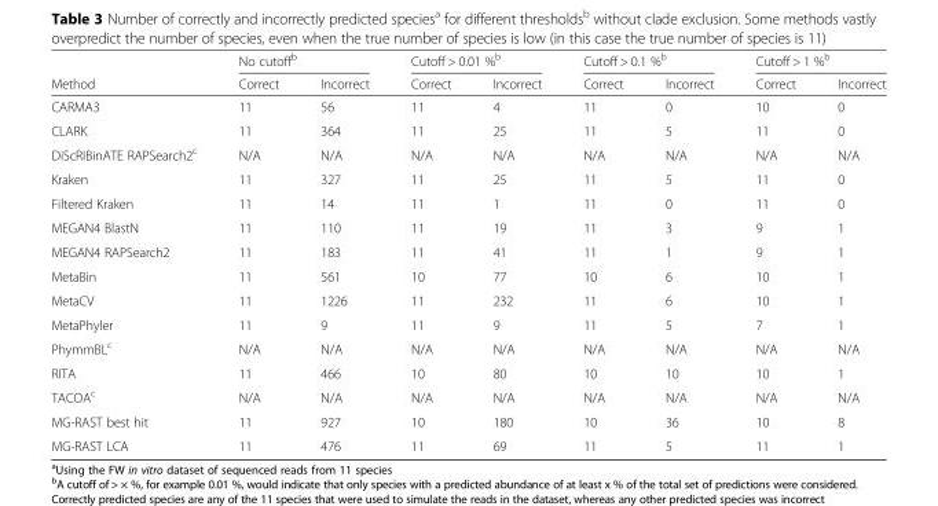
<table><thead><tr><td rowspan="2">Method</td><td colspan="2">No cutoff<sup>b</sup></td><td colspan="2">Cutoff &gt; 0.01 %<sup>b</sup></td><td colspan="2">Cutoff &gt; 0.1 %<sup>b</sup></td><td colspan="2">Cutoff &gt; 1 %<sup>b</sup></td></tr><tr><td>Correct</td><td>Incorrect</td><td>Correct</td><td>Incorrect</td><td>Correct</td><td>Incorrect</td><td>Correct</td><td>Incorrect</td></tr></thead><tbody><tr><td>CARMA3</td><td>11</td><td>56</td><td>11</td><td>4</td><td>11</td><td>0</td><td>10</td><td>0</td></tr><tr><td>CLARK</td><td>11</td><td>364</td><td>11</td><td>25</td><td>11</td><td>5</td><td>11</td><td>0</td></tr><tr><td>DiScRIBinATE RAPSearch2<sup>c</sup></td><td>N/A</td><td>N/A</td><td>N/A</td><td>N/A</td><td>N/A</td><td>N/A</td><td>N/A</td><td>N/A</td></tr><tr><td>Kraken</td><td>11</td><td>327</td><td>11</td><td>25</td><td>11</td><td>5</td><td>11</td><td>0</td></tr><tr><td>Filtered Kraken</td><td>11</td><td>14</td><td>11</td><td>1</td><td>11</td><td>0</td><td>11</td><td>0</td></tr><tr><td>MEGAN4 BlastN</td><td>11</td><td>110</td><td>11</td><td>19</td><td>11</td><td>3</td><td>9</td><td>1</td></tr><tr><td>MEGAN4 RAPSearch2</td><td>11</td><td>183</td><td>11</td><td>41</td><td>11</td><td>1</td><td>9</td><td>1</td></tr><tr><td>MetaBin</td><td>11</td><td>561</td><td>10</td><td>77</td><td>10</td><td>6</td><td>10</td><td>1</td></tr><tr><td>MetaCV</td><td>11</td><td>1226</td><td>11</td><td>232</td><td>11</td><td>6</td><td>10</td><td>1</td></tr><tr><td>MetaPhyler</td><td>11</td><td>9</td><td>11</td><td>9</td><td>11</td><td>5</td><td>7</td><td>1</td></tr><tr><td>PhymmBL<sup>c</sup></td><td>N/A</td><td>N/A</td><td>N/A</td><td>N/A</td><td>N/A</td><td>N/A</td><td>N/A</td><td>N/A</td></tr><tr><td>RITA</td><td>11</td><td>466</td><td>10</td><td>80</td><td>10</td><td>10</td><td>10</td><td>1</td></tr><tr><td>TACOA<sup>c</sup></td><td>N/A</td><td>N/A</td><td>N/A</td><td>N/A</td><td>N/A</td><td>N/A</td><td>N/A</td><td>N/A</td></tr><tr><td>MG-RAST best hit</td><td>11</td><td>927</td><td>10</td><td>180</td><td>10</td><td>36</td><td>10</td><td>8</td></tr><tr><td>MG-RAST LCA</td><td>11</td><td>476</td><td>11</td><td>69</td><td>11</td><td>5</td><td>11</td><td>1</td></tr></tbody></table>